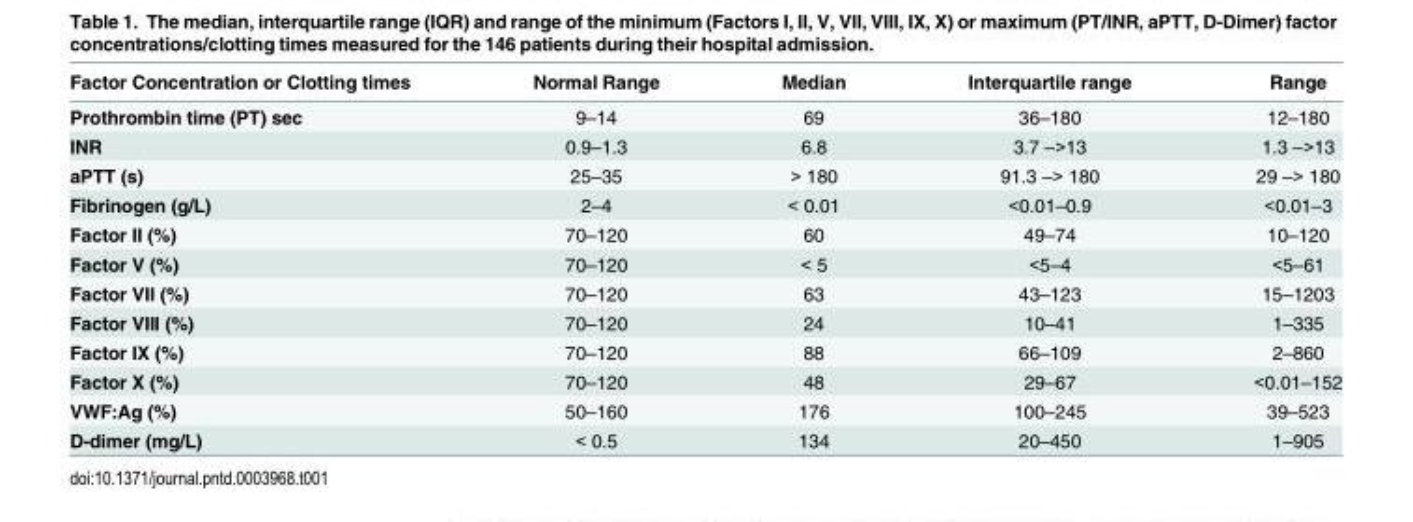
<table><thead><tr><td>Factor Concentration or Clotting times</td><td>Normal Range</td><td>Median</td><td>Interquartile range</td><td>Range</td></tr></thead><tbody><tr><td>Prothrombin time (PT) sec</td><td>9–14</td><td>69</td><td>36–180</td><td>12–180</td></tr><tr><td>INR</td><td>0.9–1.3</td><td>6.8</td><td>3.7 –&gt;13</td><td>1.3 –&gt;13</td></tr><tr><td>aPTT (s)</td><td>25–35</td><td>&gt; 180</td><td>91.3 –&gt; 180</td><td>29 –&gt; 180</td></tr><tr><td>Fibrinogen (g/L)</td><td>2–4</td><td>&lt; 0.01</td><td>&lt;0.01–0.9</td><td>&lt;0.01–3</td></tr><tr><td>Factor II (%)</td><td>70–120</td><td>60</td><td>49–74</td><td>10–120</td></tr><tr><td>Factor V (%)</td><td>70–120</td><td>&lt; 5</td><td>&lt;5–4</td><td>&lt;5–61</td></tr><tr><td>Factor VII (%)</td><td>70–120</td><td>63</td><td>43–123</td><td>15–1203</td></tr><tr><td>Factor VIII (%)</td><td>70–120</td><td>24</td><td>10–41</td><td>1–335</td></tr><tr><td>Factor IX (%)</td><td>70–120</td><td>88</td><td>66–109</td><td>2–860</td></tr><tr><td>Factor X (%)</td><td>70–120</td><td>48</td><td>29–67</td><td>&lt;0.01–152</td></tr><tr><td>VWF:Ag (%)</td><td>50–160</td><td>176</td><td>100–245</td><td>39–523</td></tr><tr><td>D-dimer (mg/L)</td><td>&lt; 0.5</td><td>134</td><td>20–450</td><td>1–905</td></tr></tbody></table>